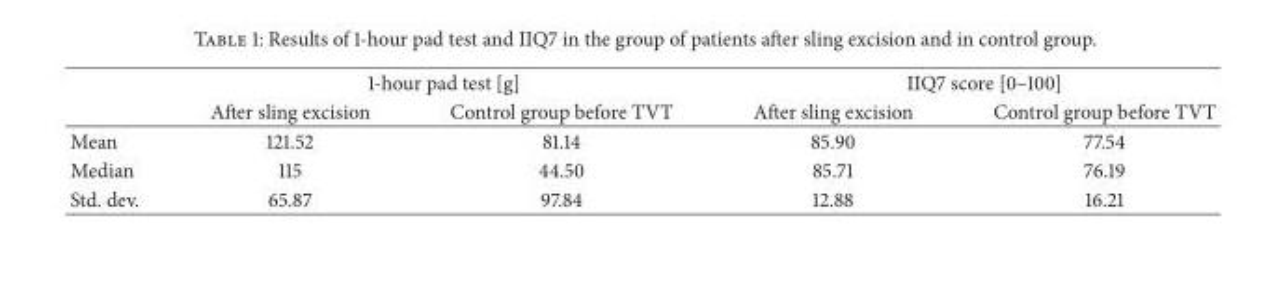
<table><thead><tr><td rowspan="2"></td><td colspan="2">1-hour pad test [g]</td><td colspan="2">IIQ7 score [0–100]</td></tr><tr><td>After sling excision</td><td>Control group before TVT</td><td>After sling excision</td><td>Control group before TVT</td></tr></thead><tbody><tr><td>Mean</td><td>121.52</td><td>81.14</td><td>85.90</td><td>77.54</td></tr><tr><td>Median</td><td>115</td><td>44.50</td><td>85.71</td><td>76.19</td></tr><tr><td>Std. dev.</td><td>65.87</td><td>97.84</td><td>12.88</td><td>16.21</td></tr></tbody></table>